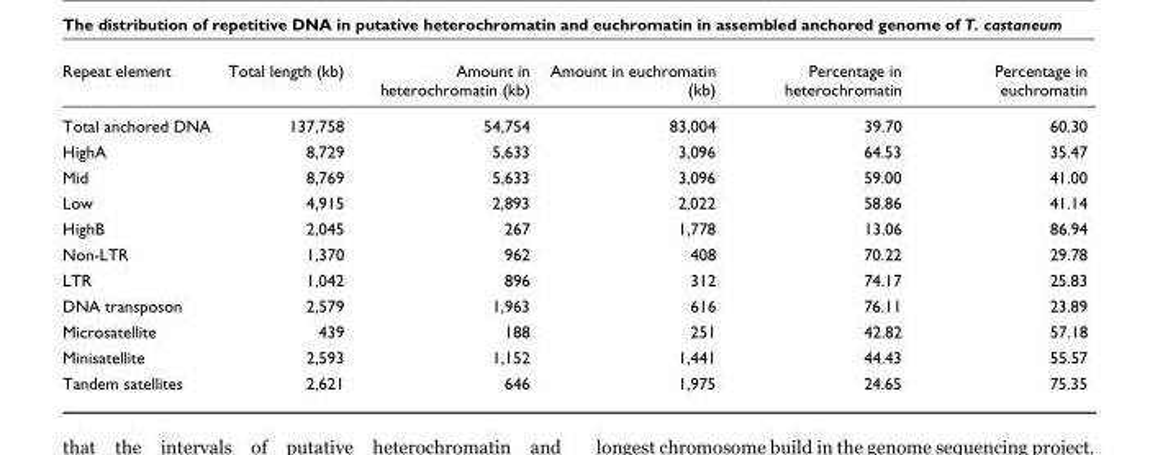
<table><thead><tr><td>Repeat element</td><td>Total length (kb)</td><td>Amount in heterochromatin (kb)</td><td>Amount in euchromatin (kb)</td><td>Percentage in heterochromatin</td><td>Percentage in euchromatin</td></tr></thead><tbody><tr><td>Total anchored DNA</td><td>137,758</td><td>54,754</td><td>83,004</td><td>39.70</td><td>60.30</td></tr><tr><td>HighA</td><td>8,729</td><td>5,633</td><td>3,096</td><td>64.53</td><td>35.47</td></tr><tr><td>Mid</td><td>8,769</td><td>5,633</td><td>3,096</td><td>59.00</td><td>41.00</td></tr><tr><td>Low</td><td>4,915</td><td>2,893</td><td>2,022</td><td>58.86</td><td>41.14</td></tr><tr><td>HighB</td><td>2,045</td><td>267</td><td>1,778</td><td>13.06</td><td>86.94</td></tr><tr><td>Non-LTR</td><td>1,370</td><td>962</td><td>408</td><td>70.22</td><td>29.78</td></tr><tr><td>LTR</td><td>1,042</td><td>896</td><td>312</td><td>74.17</td><td>25.83</td></tr><tr><td>DNA transposon</td><td>2,579</td><td>1,963</td><td>616</td><td>76.11</td><td>23.89</td></tr><tr><td>Microsatellite</td><td>439</td><td>188</td><td>251</td><td>42.82</td><td>57.18</td></tr><tr><td>Minisatellite</td><td>2,593</td><td>1,152</td><td>1,441</td><td>44.43</td><td>55.57</td></tr><tr><td>Tandem satellites</td><td>2,621</td><td>646</td><td>1,975</td><td>24.65</td><td>75.35</td></tr></tbody></table>